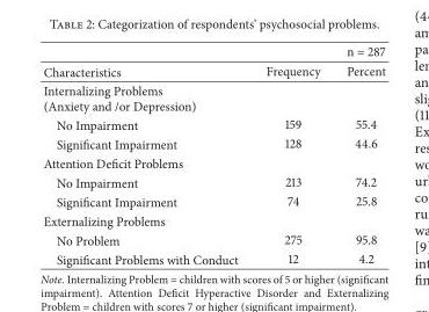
<table><thead><tr><td></td><td></td><td>n = 287</td></tr></thead><tbody><tr><td>Characteristics</td><td>Frequency</td><td>Percent</td></tr><tr><td colspan="3">Internalizing Problems (Anxiety and /or Depression)</td></tr><tr><td>No Impairment</td><td>159</td><td>55.4</td></tr><tr><td>Significant Impairment</td><td>128</td><td>44.6</td></tr><tr><td colspan="3">Attention Deficit Problems</td></tr><tr><td>No Impairment</td><td>213</td><td>74.2</td></tr><tr><td>Significant Impairment</td><td>74</td><td>25.8</td></tr><tr><td colspan="3">Externalizing Problems</td></tr><tr><td>No Problem</td><td>275</td><td>95.8</td></tr><tr><td>Significant Problems with Conduct</td><td>12</td><td>4.2</td></tr></tbody></table>